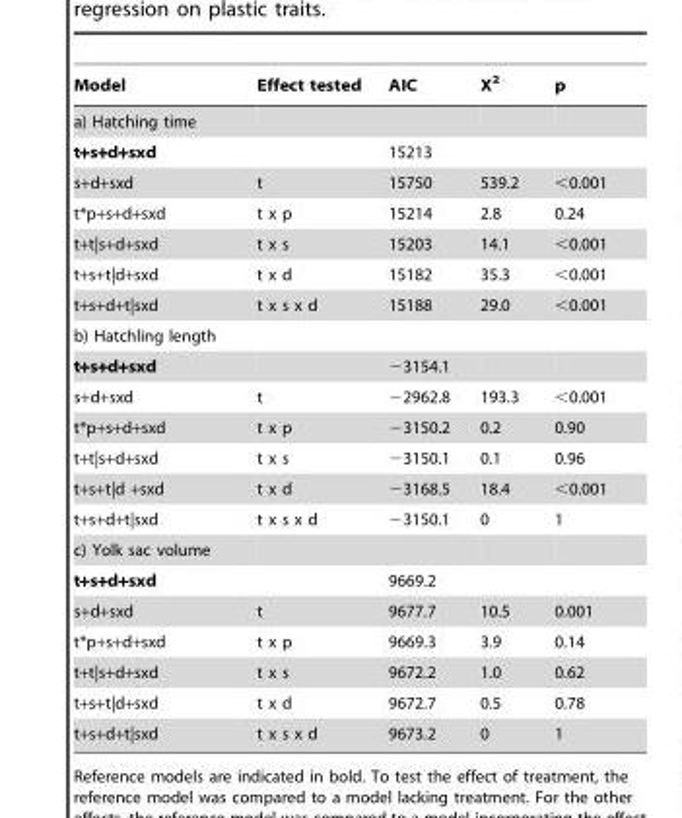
<table><thead><tr><td>Model</td><td>Effect tested</td><td>AIC</td><td>X<sup>2</sup></td><td>p</td></tr></thead><tbody><tr><td colspan="5">a) Hatching time</td></tr><tr><td>t+s+d+sxd</td><td></td><td>15213</td><td></td><td></td></tr><tr><td>s+d+sxd</td><td>t</td><td>15750</td><td>539.2</td><td>&lt;0.001</td></tr><tr><td>t*p+s+d+sxd</td><td>t x p</td><td>15214</td><td>2.8</td><td>0.24</td></tr><tr><td>t+t|s+d+sxd</td><td>t x s</td><td>15203</td><td>14.1</td><td>&lt;0.001</td></tr><tr><td>t+s+t|d+sxd</td><td>t x d</td><td>15182</td><td>35.3</td><td>&lt;0.001</td></tr><tr><td>t+s+d+t|sxd</td><td>t x s x d</td><td>15188</td><td>29.0</td><td>&lt;0.001</td></tr><tr><td colspan="5">b) Hatchling length</td></tr><tr><td>t+s+d+sxd</td><td></td><td>−3154.1</td><td></td><td></td></tr><tr><td>s+d+sxd</td><td>t</td><td>−2962.8</td><td>193.3</td><td>&lt;0.001</td></tr><tr><td>t*p+s+d+sxd</td><td>t x p</td><td>−3150.2</td><td>0.2</td><td>0.90</td></tr><tr><td>t+t|s+d+sxd</td><td>t x s</td><td>−3150.1</td><td>0.1</td><td>0.96</td></tr><tr><td>t+s+t|d +sxd</td><td>t x d</td><td>−3168.5</td><td>18.4</td><td>&lt;0.001</td></tr><tr><td>t+s+d+t|sxd</td><td>t x s x d</td><td>−3150.1</td><td>0</td><td>1</td></tr><tr><td colspan="5">c) Yolk sac volume</td></tr><tr><td>t+s+d+sxd</td><td></td><td>9669.2</td><td></td><td></td></tr><tr><td>s+d+sxd</td><td>t</td><td>9677.7</td><td>10.5</td><td>0.001</td></tr><tr><td>t*p+s+d+sxd</td><td>t x p</td><td>9669.3</td><td>3.9</td><td>0.14</td></tr><tr><td>t+t|s+d+sxd</td><td>t x s</td><td>9672.2</td><td>1.0</td><td>0.62</td></tr><tr><td>t+s+t|d+sxd</td><td>t x d</td><td>9672.7</td><td>0.5</td><td>0.78</td></tr><tr><td>t+s+d+t|sxd</td><td>t x s x d</td><td>9673.2</td><td>0</td><td>1</td></tr></tbody></table>